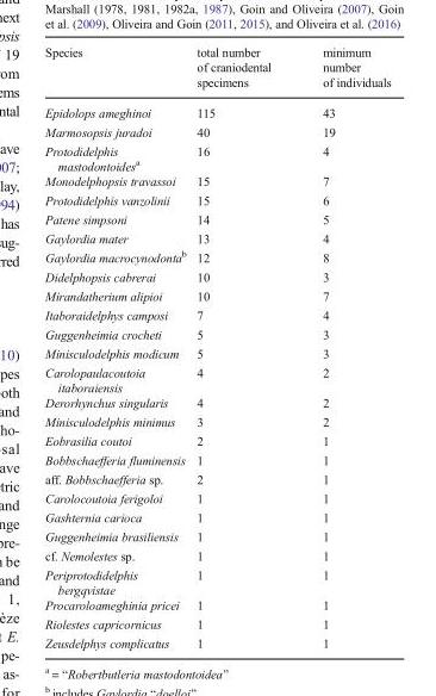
<table><thead><tr><td>Species</td><td>total number of craniodental specimens</td><td>minimum number of individuals</td></tr></thead><tbody><tr><td>Epidolops ameghinoi</td><td>115</td><td>43</td></tr><tr><td>Marmosopsis juradoi</td><td>40</td><td>19</td></tr><tr><td>Protodidelphis mastodontoides<sup>a</sup></td><td>16</td><td>4</td></tr><tr><td>Monodelphopsis travassoi</td><td>15</td><td>7</td></tr><tr><td>Protodidelphis vanzolinii</td><td>15</td><td>6</td></tr><tr><td>Patene simpsoni</td><td>14</td><td>5</td></tr><tr><td>Gaylordia mater</td><td>13</td><td>4</td></tr><tr><td>Gaylordia macrocynodonta<sup>b</sup></td><td>12</td><td>8</td></tr><tr><td>Didelphopsis cabrerai</td><td>10</td><td>3</td></tr><tr><td>Mirandatherium alipioi</td><td>10</td><td>7</td></tr><tr><td>Itaboraidelphys camposi</td><td>7</td><td>4</td></tr><tr><td>Guggenheimia crocheti</td><td>5</td><td>3</td></tr><tr><td>Minisculodelphis modicum</td><td>5</td><td>3</td></tr><tr><td>Carolopaulacoutoia itaboraiensis</td><td>4</td><td>2</td></tr><tr><td>Derorhynchus singularis</td><td>4</td><td>2</td></tr><tr><td>Minisculodelphis minimus</td><td>3</td><td>2</td></tr><tr><td>Eobrasilia coutoi</td><td>2</td><td>1</td></tr><tr><td>Bobbschaefferia fluminensis</td><td>1</td><td>1</td></tr><tr><td>aff. Bobbschaefferia sp.</td><td>2</td><td>1</td></tr><tr><td>Carolocoutoia ferigoloi</td><td>1</td><td>1</td></tr><tr><td>Gashternia carioca</td><td>1</td><td>1</td></tr><tr><td>Guggenheimia brasiliensis</td><td>1</td><td>1</td></tr><tr><td>cf. Nemolestes sp.</td><td>1</td><td>1</td></tr><tr><td>Periprotodidelphis bergqvistae</td><td>1</td><td>1</td></tr><tr><td>Procaroloameghinia pricei</td><td>1</td><td>1</td></tr><tr><td>Riolestes capricornicus</td><td>1</td><td>1</td></tr><tr><td>Zeusdelphys complicatus</td><td>1</td><td>1</td></tr></tbody></table>